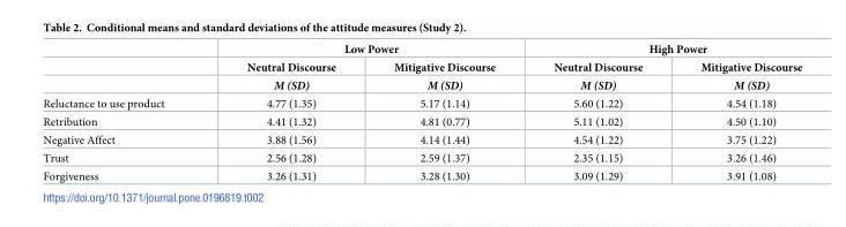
<table><thead><tr><td rowspan="3"></td><td colspan="2">Low Power</td><td colspan="2">High Power</td></tr><tr><td rowspan="2">Neutral Discourse M (SD)</td><td rowspan="2">Mitigative Discourse M (SD)</td><td rowspan="2">Neutral Discourse M (SD)</td><td rowspan="2">Mitigative Discourse M (SD)</td></tr><tr></tr></thead><tbody><tr><td>Reluctance to use product</td><td>4.77 (1.35)</td><td>5.17 (1.14)</td><td>5.60 (1.22)</td><td>4.54 (1.18)</td></tr><tr><td>Retribution</td><td>4.41 (1.32)</td><td>4.81 (0.77)</td><td>5.11 (1.02)</td><td>4.50 (1.10)</td></tr><tr><td>Negative Affect</td><td>3.88 (1.56)</td><td>4.14 (1.44)</td><td>4.54 (1.22)</td><td>3.75 (1.22)</td></tr><tr><td>Trust</td><td>2.56 (1.28)</td><td>2.59 (1.37)</td><td>2.35 (1.15)</td><td>3.26 (1.46)</td></tr><tr><td>Forgiveness</td><td>3.26 (1.31)</td><td>3.28 (1.30)</td><td>3.09 (1.29)</td><td>3.91 (1.08)</td></tr></tbody></table>